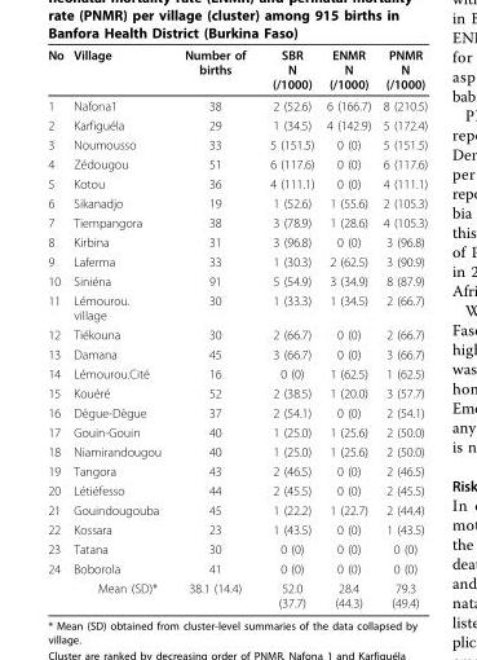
<table><thead><tr><td>No</td><td>Village</td><td>Number of births</td><td>SBR N (/1000)</td><td>ENMR N (/1000)</td><td>PNMR N (/1000)</td></tr></thead><tbody><tr><td>1</td><td>Nafona1</td><td>38</td><td>2 (52.6)</td><td>6 (166.7)</td><td>8 (210.5)</td></tr><tr><td>2</td><td>Karfiguéla</td><td>29</td><td>1 (34.5)</td><td>4 (142.9)</td><td>5 (172.4)</td></tr><tr><td>3</td><td>Noumousso</td><td>33</td><td>5 (151.5)</td><td>0 (0)</td><td>5 (151.5)</td></tr><tr><td>4</td><td>Zédougou</td><td>51</td><td>6 (117.6)</td><td>0 (0)</td><td>6 (117.6)</td></tr><tr><td>5</td><td>Kotou</td><td>36</td><td>4 (111.1)</td><td>0 (0)</td><td>4 (111.1)</td></tr><tr><td>6</td><td>Sikanadjo</td><td>19</td><td>1 (52.6)</td><td>1 (55.6)</td><td>2 (105.3)</td></tr><tr><td>7</td><td>Tiempangora</td><td>38</td><td>3 (78.9)</td><td>1 (28.6)</td><td>4 (105.3)</td></tr><tr><td>8</td><td>Kirbina</td><td>31</td><td>3 (96.8)</td><td>0 (0)</td><td>3 (96.8)</td></tr><tr><td>9</td><td>Laferma</td><td>33</td><td>1 (30.3)</td><td>2 (62.5)</td><td>3 (90.9)</td></tr><tr><td>10</td><td>Siniéna</td><td>91</td><td>5 (54.9)</td><td>3 (34.9)</td><td>8 (87.9)</td></tr><tr><td>11</td><td>Lémourou. village</td><td>30</td><td>1 (33.3)</td><td>1 (34.5)</td><td>2 (66.7)</td></tr><tr><td>12</td><td>Tiékouna</td><td>30</td><td>2 (66.7)</td><td>0 (0)</td><td>2 (66.7)</td></tr><tr><td>13</td><td>Damana</td><td>45</td><td>3 (66.7)</td><td>0 (0)</td><td>3 (66.7)</td></tr><tr><td>14</td><td>Lémourou.Cité</td><td>16</td><td>0 (0)</td><td>1 (62.5)</td><td>1 (62.5)</td></tr><tr><td>15</td><td>Kouéré</td><td>52</td><td>2 (38.5)</td><td>1 (20.0)</td><td>3 (57.7)</td></tr><tr><td>16</td><td>Dègue-Dègue</td><td>37</td><td>2 (54.1)</td><td>0 (0)</td><td>2 (54.1)</td></tr><tr><td>17</td><td>Gouin-Gouin</td><td>40</td><td>1 (25.0)</td><td>1 (25.6)</td><td>2 (50.0)</td></tr><tr><td>18</td><td>Niamirandougou</td><td>40</td><td>1 (25.0)</td><td>1 (25.6)</td><td>2 (50.0)</td></tr><tr><td>19</td><td>Tangora</td><td>43</td><td>2 (46.5)</td><td>0 (0)</td><td>2 (46.5)</td></tr><tr><td>20</td><td>Létiéfesso</td><td>44</td><td>2 (45.5)</td><td>0 (0)</td><td>2 (45.5)</td></tr><tr><td>21</td><td>Gouindougouba</td><td>45</td><td>1 (22.2)</td><td>1 (22.7)</td><td>2 (44.4)</td></tr><tr><td>22</td><td>Kossara</td><td>23</td><td>1 (43.5)</td><td>0 (0)</td><td>1 (43.5)</td></tr><tr><td>23</td><td>Tatana</td><td>30</td><td>0 (0)</td><td>0 (0)</td><td>0 (0)</td></tr><tr><td rowspan="2">24</td><td>Boborola</td><td>41</td><td>0 (0)</td><td>0 (0)</td><td>0 (0)</td></tr><tr><td>Mean (SD)*</td><td>38.1 (14.4)</td><td>52.0 (37.7)</td><td>28.4 (44.3)</td><td>79.3 (49.4)</td></tr></tbody></table>